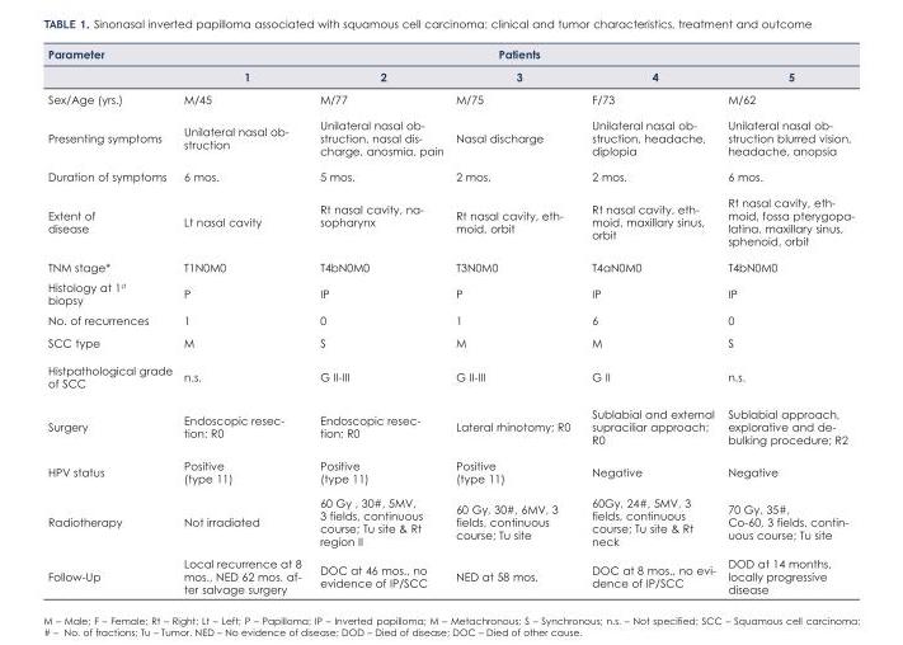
<table><thead><tr><td rowspan="2">Parameter</td><td colspan="5">Patients</td></tr><tr><td>1</td><td>2</td><td>3</td><td>4</td><td>5</td></tr></thead><tbody><tr><td>Sex/Age (yrs.)</td><td>M/45</td><td>M/77</td><td>M/75</td><td>F/73</td><td>M/62</td></tr><tr><td>Presenting symptoms</td><td>Unilateral nasal ob- struction</td><td>Unilateral nasal ob- struction, nasal dis- charge, anosmia, pain</td><td>Nasal discharge</td><td>Unilateral nasal ob- struction, headache, diplopia</td><td>Unilateral nasal ob- struction blurred vision, headache, anopsia</td></tr><tr><td>Duration of symptoms</td><td>6 mos.</td><td>5 mos.</td><td>2 mos.</td><td>2 mos.</td><td>6 mos.</td></tr><tr><td>Extent of disease</td><td>Lt nasal cavity</td><td>Rt nasal cavity, na- sopharynx</td><td>Rt nasal cavity, eth- moid, orbit</td><td>Rt nasal cavity, eth- moid, maxillary sinus, orbit</td><td>Rt nasal cavity, eth- moid, fossa pterygopa- latina, maxillary sinus, sphenoid, orbit</td></tr><tr><td>TNM stage*</td><td>T1N0M0</td><td>T4bN0M0</td><td>T3N0M0</td><td>T4aN0M0</td><td>T4bN0M0</td></tr><tr><td>Histology at 1<sup>st</sup> biopsy</td><td>P</td><td>IP</td><td>P</td><td>IP</td><td>IP</td></tr><tr><td>No. of recurrences</td><td>1</td><td>0</td><td>1</td><td>6</td><td>0</td></tr><tr><td>SCC type</td><td>M</td><td>S</td><td>M</td><td>M</td><td>S</td></tr><tr><td>Histpathological grade of SCC</td><td>n.s.</td><td>G II-III</td><td>G II-III</td><td>G II</td><td>n.s.</td></tr><tr><td>Surgery</td><td>Endoscopic resec- tion; R0</td><td>Endoscopic resec- tion; R0</td><td>Lateral rhinotomy; R0</td><td>Sublabial and external supraciliar approach; R0</td><td>Sublabial approach, explorative and de- bulking procedure; R2</td></tr><tr><td>HPV status</td><td>Positive (type 11)</td><td>Positive (type 11)</td><td>Positive (type 11)</td><td>Negative</td><td>Negative</td></tr><tr><td>Radiotherapy</td><td>Not irradiated</td><td>60 Gy , 30#, 5MV, 3 fields, continuous course; Tu site &amp; Rt region II</td><td>60 Gy, 30#, 6MV, 3 fields, continuous course; Tu site</td><td>60Gy, 24#, 5MV, 3 fields, continuous course; Tu site &amp; Rt neck</td><td>70 Gy, 35#, Co-60, 3 fields, contin- uous course; Tu site</td></tr><tr><td>Follow-Up</td><td>Local recurrence at 8 mos., NED 62 mos. af- ter salvage surgery</td><td>DOC at 46 mos., no evidence of IP/SCC</td><td>NED at 58 mos.</td><td>DOC at 8 mos., no evi- dence of IP/SCC</td><td>DOD at 14 months, locally progressive disease</td></tr></tbody></table>